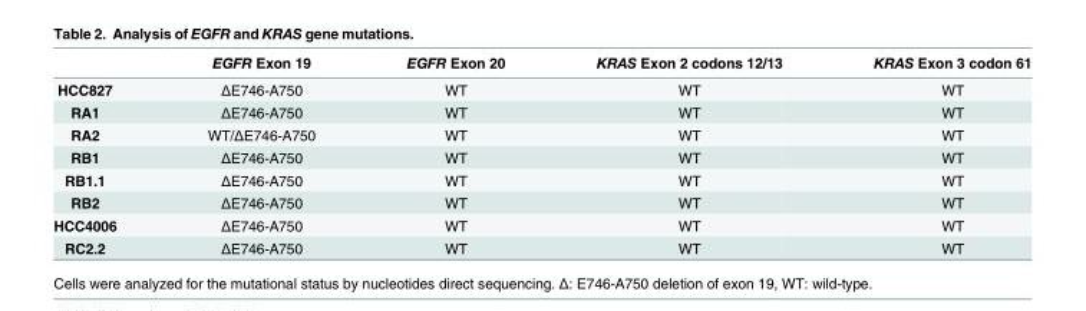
<table><thead><tr><td></td><td>EGFR Exon 19</td><td>EGFR Exon 20</td><td>KRAS Exon 2 codons 12/13</td><td>KRAS Exon 3 codon 61</td></tr></thead><tbody><tr><td>HCC827</td><td>ΔE746-A750</td><td>WT</td><td>WT</td><td>WT</td></tr><tr><td>RA1</td><td>ΔE746-A750</td><td>WT</td><td>WT</td><td>WT</td></tr><tr><td>RA2</td><td>WT/ΔE746-A750</td><td>WT</td><td>WT</td><td>WT</td></tr><tr><td>RB1</td><td>ΔE746-A750</td><td>WT</td><td>WT</td><td>WT</td></tr><tr><td>RB1.1</td><td>ΔE746-A750</td><td>WT</td><td>WT</td><td>WT</td></tr><tr><td>RB2</td><td>ΔE746-A750</td><td>WT</td><td>WT</td><td>WT</td></tr><tr><td>HCC4006</td><td>ΔE746-A750</td><td>WT</td><td>WT</td><td>WT</td></tr><tr><td>RC2.2</td><td>ΔE746-A750</td><td>WT</td><td>WT</td><td>WT</td></tr></tbody></table>